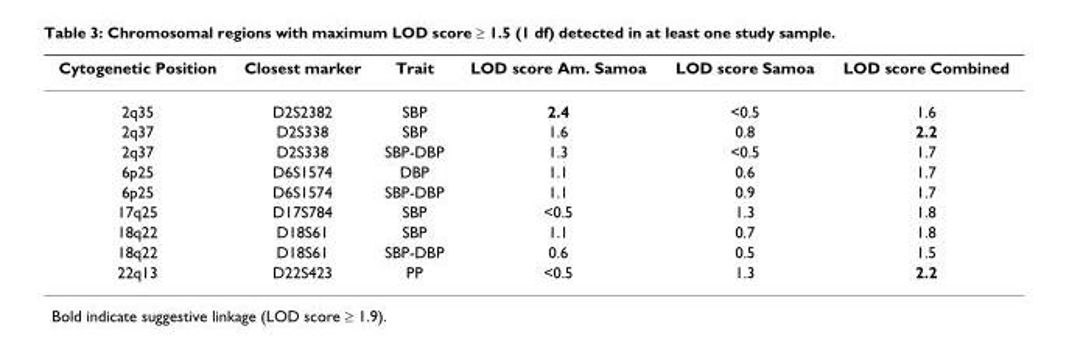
<table><thead><tr><td>Cytogenetic Position</td><td>Closest marker</td><td>Trait</td><td>LOD score Am. Samoa</td><td>LOD score Samoa</td><td>LOD score Combined</td></tr></thead><tbody><tr><td>2q35</td><td>D2S2382</td><td>SBP</td><td>2.4</td><td>&lt;0.5</td><td>1.6</td></tr><tr><td>2q37</td><td>D2S338</td><td>SBP</td><td>1.6</td><td>0.8</td><td>2.2</td></tr><tr><td>2q37</td><td>D2S338</td><td>SBP-DBP</td><td>1.3</td><td>&lt;0.5</td><td>1.7</td></tr><tr><td>6p25</td><td>D6S1574</td><td>DBP</td><td>1.1</td><td>0.6</td><td>1.7</td></tr><tr><td>6p25</td><td>D6S1574</td><td>SBP-DBP</td><td>1.1</td><td>0.9</td><td>1.7</td></tr><tr><td>17q25</td><td>D17S784</td><td>SBP</td><td>&lt;0.5</td><td>1.3</td><td>1.8</td></tr><tr><td>18q22</td><td>D18S61</td><td>SBP</td><td>1.1</td><td>0.7</td><td>1.8</td></tr><tr><td>18q22</td><td>D18S61</td><td>SBP-DBP</td><td>0.6</td><td>0.5</td><td>1.5</td></tr><tr><td>22q13</td><td>D22S423</td><td>PP</td><td>&lt;0.5</td><td>1.3</td><td>2.2</td></tr></tbody></table>